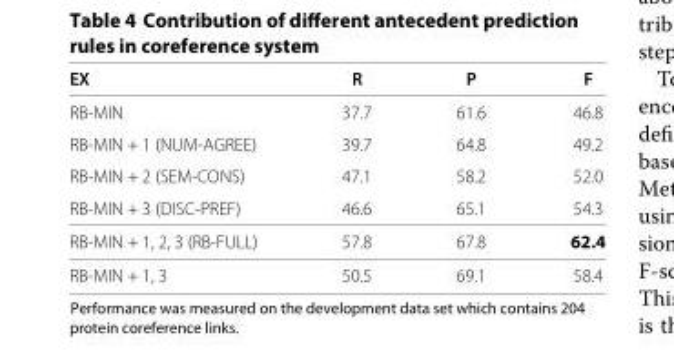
<table><thead><tr><td>EX</td><td>R</td><td>P</td><td>F</td></tr></thead><tbody><tr><td>RB-MIN</td><td>37.7</td><td>61.6</td><td>46.8</td></tr><tr><td>RB-MIN + 1 (NUM-AGREE)</td><td>39.7</td><td>64.8</td><td>49.2</td></tr><tr><td>RB-MIN + 2 (SEM-CONS)</td><td>47.1</td><td>58.2</td><td>52.0</td></tr><tr><td>RB-MIN + 3 (DISC-PREF)</td><td>46.6</td><td>65.1</td><td>54.3</td></tr><tr><td>RB-MIN + 1, 2, 3 (RB-FULL)</td><td>57.8</td><td>67.8</td><td>62.4</td></tr><tr><td>RB-MIN + 1, 3</td><td>50.5</td><td>69.1</td><td>58.4</td></tr></tbody></table>